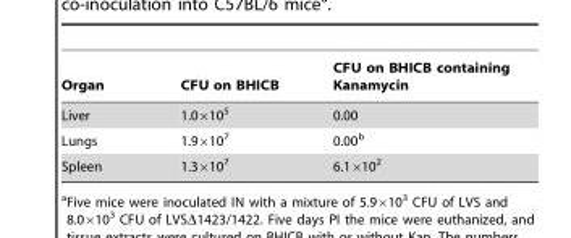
<table><thead><tr><td>Organ</td><td>CFU on BHICB</td><td>CFU on BHICB containing Kanamycin</td></tr></thead><tbody><tr><td>Liver</td><td>1.0×10<sup>5</sup></td><td>0.00</td></tr><tr><td>Lungs</td><td>1.9×10<sup>7</sup></td><td>0.00<sup>b</sup></td></tr><tr><td>Spleen</td><td>1.3×10<sup>7</sup></td><td>6.1×10<sup>2</sup></td></tr></tbody></table>